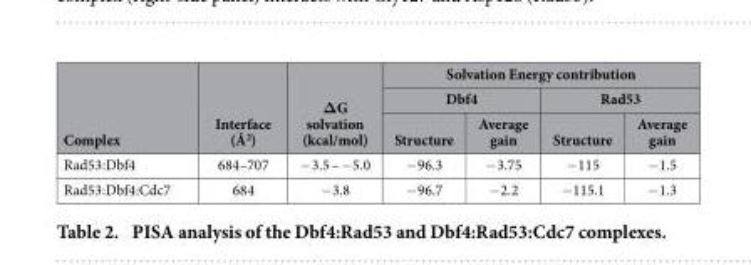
<table><thead><tr><td rowspan="3">Complex</td><td rowspan="3">Interface (Å<sup>2</sup>)</td><td rowspan="3">ΔG solvation (kcal/mol)</td><td colspan="4">Solvation Energy contribution</td></tr><tr><td colspan="2">Dbf4</td><td colspan="2">Rad53</td></tr><tr><td>Structure</td><td>Average gain</td><td>Structure</td><td>Average gain</td></tr></thead><tbody><tr><td>Rad53:Dbf4</td><td>684–707</td><td>− 3.5 – − 5.0</td><td>− 96.3</td><td>− 3.75</td><td>− 115</td><td>− 1.5</td></tr><tr><td>Rad53:Dbf4:Cdc7</td><td>684</td><td>− 3.8</td><td>− 96.7</td><td>− 2.2</td><td>− 115.1</td><td>− 1.3</td></tr></tbody></table>